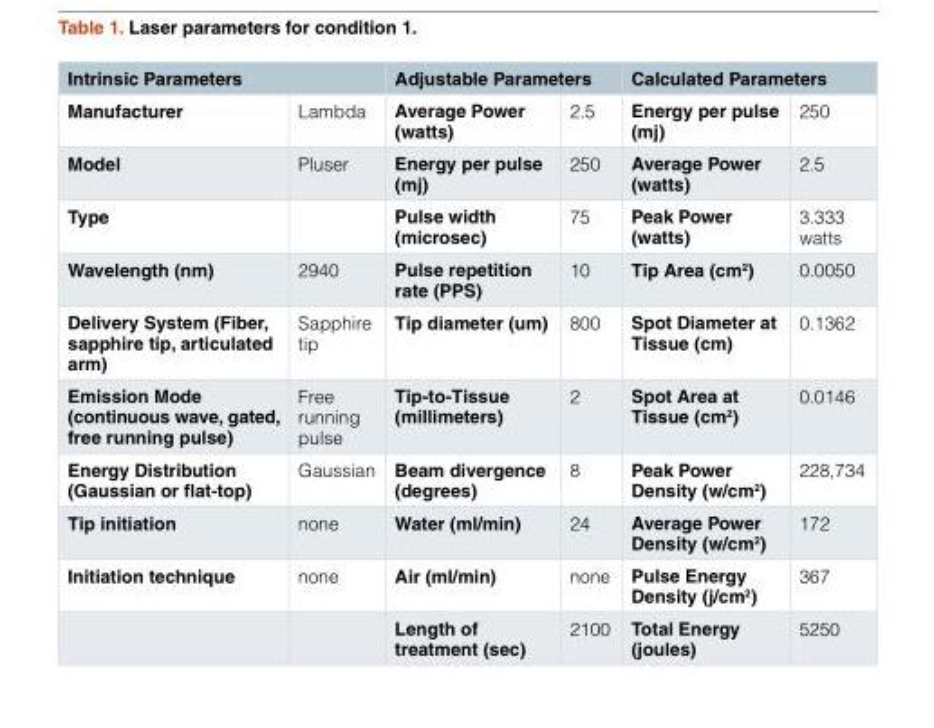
<table><thead><tr><td colspan="2">Intrinsic Parameters</td><td colspan="2">Adjustable Parameters</td><td colspan="2">Calculated Parameters</td></tr><tr><td>Manufacturer</td><td>Lambda</td><td>Average Power (watts)</td><td>2.5</td><td>Energy per pulse (mj)</td><td>250</td></tr></thead><tbody><tr><td>Model</td><td>Pluser</td><td>Energy per pulse (mj)</td><td>250</td><td>Average Power (watts)</td><td>2.5</td></tr><tr><td>Type</td><td></td><td>Pulse width (microsec)</td><td>75</td><td>Peak Power (watts)</td><td>3.333 watts</td></tr><tr><td>Wavelength (nm)</td><td>2940</td><td>Pulse repetition rate (PPS)</td><td>10</td><td>Tip Area (cm<sup>2</sup>)</td><td>0.0050</td></tr><tr><td>Delivery System (Fiber, sapphire tip, articulated arm)</td><td>Sapphire tip</td><td>Tip diameter (um)</td><td>800</td><td>Spot Diameter at Tissue (cm)</td><td>0.1362</td></tr><tr><td>Emission Mode (continuous wave, gated, free running pulse)</td><td>Free running pulse</td><td>Tip-to-Tissue (millimeters)</td><td>2</td><td>Spot Area at Tissue (cm<sup>2</sup>)</td><td>0.0146</td></tr><tr><td>Energy Distribution (Gaussian or flat-top)</td><td>Gaussian</td><td>Beam divergence (degrees)</td><td>8</td><td>Peak Power Density (w/cm<sup>2</sup>)</td><td>228,734</td></tr><tr><td>Tip initiation</td><td>none</td><td>Water (ml/min)</td><td>24</td><td>Average Power Density (w/cm<sup>2</sup>)</td><td>172</td></tr><tr><td rowspan="2">Initiation technique</td><td>none</td><td>Air (ml/min)</td><td>none</td><td>Pulse Energy Density (j/cm<sup>2</sup>)</td><td>367</td></tr><tr><td></td><td>Length of treatment (sec)</td><td>2100</td><td>Total Energy (joules)</td><td>5250</td></tr></tbody></table>